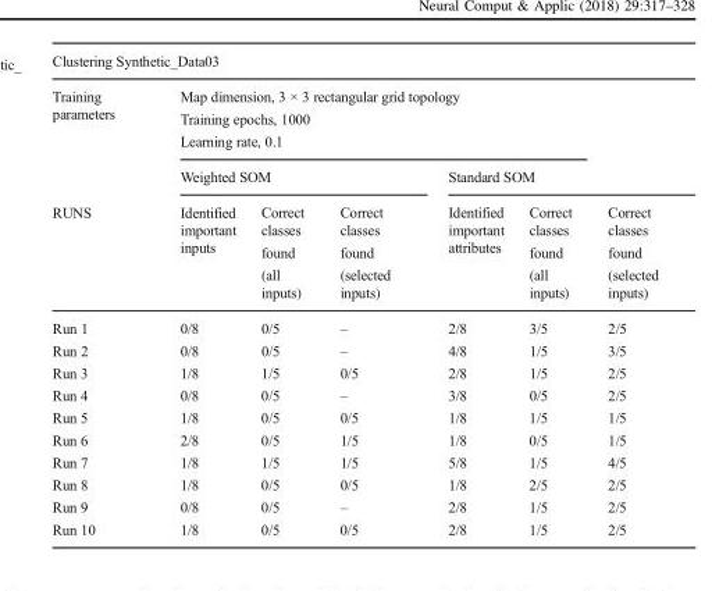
<table><thead><tr><td colspan="7">Clustering Synthetic_Data03</td></tr><tr><td rowspan="3">Training parameters RUNS</td><td colspan="5">Map dimension, 3 × 3 rectangular grid topology Training epochs, 1000 Learning rate, 0.1</td><td></td></tr><tr><td colspan="3">Weighted SOM</td><td colspan="3">Standard SOM</td></tr><tr><td>Identified important inputs</td><td>Correct classes found (all inputs)</td><td>Correct classes found (selected inputs)</td><td>Identified important attributes</td><td>Correct classes found (all inputs)</td><td>Correct classes found (selected inputs)</td></tr></thead><tbody><tr><td>Run 1</td><td>0/8</td><td>0/5</td><td>–</td><td>2/8</td><td>3/5</td><td>2/5</td></tr><tr><td>Run 2</td><td>0/8</td><td>0/5</td><td>–</td><td>4/8</td><td>1/5</td><td>3/5</td></tr><tr><td>Run 3</td><td>1/8</td><td>1/5</td><td>0/5</td><td>2/8</td><td>1/5</td><td>2/5</td></tr><tr><td>Run 4</td><td>0/8</td><td>0/5</td><td>–</td><td>3/8</td><td>0/5</td><td>2/5</td></tr><tr><td>Run 5</td><td>1/8</td><td>0/5</td><td>0/5</td><td>1/8</td><td>1/5</td><td>1/5</td></tr><tr><td>Run 6</td><td>2/8</td><td>0/5</td><td>1/5</td><td>1/8</td><td>0/5</td><td>1/5</td></tr><tr><td>Run 7</td><td>1/8</td><td>1/5</td><td>1/5</td><td>5/8</td><td>1/5</td><td>4/5</td></tr><tr><td>Run 8</td><td>1/8</td><td>0/5</td><td>0/5</td><td>1/8</td><td>2/5</td><td>2/5</td></tr><tr><td>Run 9</td><td>0/8</td><td>0/5</td><td>–</td><td>2/8</td><td>1/5</td><td>2/5</td></tr><tr><td>Run 10</td><td>1/8</td><td>0/5</td><td>0/5</td><td>2/8</td><td>1/5</td><td>2/5</td></tr></tbody></table>